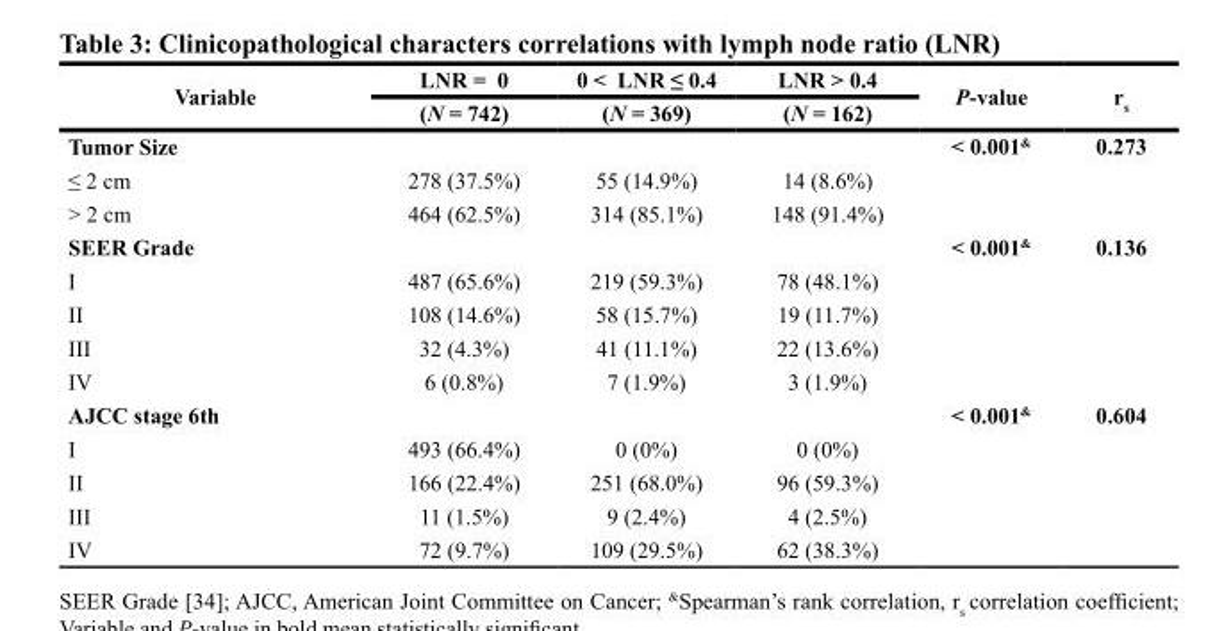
<table><thead><tr><td rowspan="2">Variable</td><td rowspan="2">LNR = 0 (N = 742)</td><td rowspan="2">0 &lt; LNR ≤ 0.4 (N = 369)</td><td rowspan="2">LNR &gt; 0.4 (N = 162)</td><td rowspan="2">P-value</td><td rowspan="2">r<sub>s</sub></td></tr><tr></tr></thead><tbody><tr><td>Tumor Size</td><td></td><td></td><td></td><td>&lt; 0.001<sup>&amp;</sup></td><td>0.273</td></tr><tr><td>≤ 2 cm</td><td>278 (37.5%)</td><td>55 (14.9%)</td><td>14 (8.6%)</td><td></td><td></td></tr><tr><td>&gt; 2 cm</td><td>464 (62.5%)</td><td>314 (85.1%)</td><td>148 (91.4%)</td><td></td><td></td></tr><tr><td>SEER Grade</td><td></td><td></td><td></td><td>&lt; 0.001<sup>&amp;</sup></td><td>0.136</td></tr><tr><td>I</td><td>487 (65.6%)</td><td>219 (59.3%)</td><td>78 (48.1%)</td><td></td><td></td></tr><tr><td>II</td><td>108 (14.6%)</td><td>58 (15.7%)</td><td>19 (11.7%)</td><td></td><td></td></tr><tr><td>III</td><td>32 (4.3%)</td><td>41 (11.1%)</td><td>22 (13.6%)</td><td></td><td></td></tr><tr><td>IV</td><td>6 (0.8%)</td><td>7 (1.9%)</td><td>3 (1.9%)</td><td></td><td></td></tr><tr><td>AJCC stage 6th</td><td></td><td></td><td></td><td>&lt; 0.001<sup>&amp;</sup></td><td>0.604</td></tr><tr><td>I</td><td>493 (66.4%)</td><td>0 (0%)</td><td>0 (0%)</td><td></td><td></td></tr><tr><td>II</td><td>166 (22.4%)</td><td>251 (68.0%)</td><td>96 (59.3%)</td><td></td><td></td></tr><tr><td>III</td><td>11 (1.5%)</td><td>9 (2.4%)</td><td>4 (2.5%)</td><td></td><td></td></tr><tr><td>IV</td><td>72 (9.7%)</td><td>109 (29.5%)</td><td>62 (38.3%)</td><td></td><td></td></tr></tbody></table>